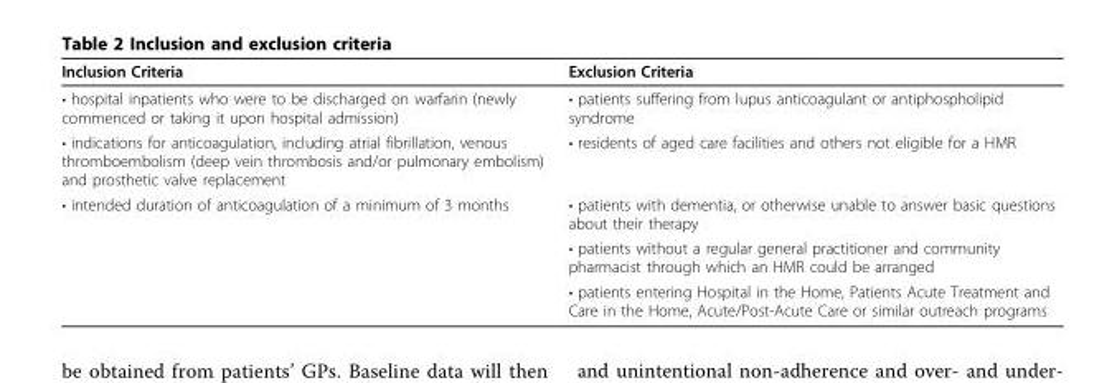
<table><thead><tr><td>Inclusion Criteria</td><td>Exclusion Criteria</td></tr></thead><tbody><tr><td>• hospital inpatients who were to be discharged on warfarin (newly commenced or taking it upon hospital admission)</td><td>• patients suffering from lupus anticoagulant or antiphospholipid syndrome</td></tr><tr><td>• indications for anticoagulation, including atrial fibrillation, venous thromboembolism (deep vein thrombosis and/or pulmonary embolism) and prosthetic valve replacement</td><td>• residents of aged care facilities and others not eligible for a HMR</td></tr><tr><td rowspan="3">• intended duration of anticoagulation of a minimum of 3 months</td><td>• patients with dementia, or otherwise unable to answer basic questions about their therapy</td></tr><tr><td>• patients without a regular general practitioner and community pharmacist through which an HMR could be arranged</td></tr><tr><td>• patients entering Hospital in the Home, Patients Acute Treatment and Care in the Home, Acute/Post-Acute Care or similar outreach programs</td></tr></tbody></table>